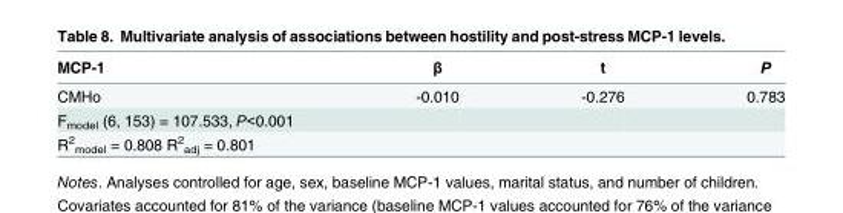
<table><thead><tr><td>MCP-1</td><td>β</td><td>t</td><td>P</td></tr></thead><tbody><tr><td>CMHo</td><td>-0.010</td><td>-0.276</td><td>0.783</td></tr><tr><td colspan="4">F<sub>model</sub> (6, 153) = 107.533, P&lt;0.001</td></tr><tr><td>R<sup>2</sup> <sub>model</sub> = 0.808 R<sup>2</sup> <sub>adj</sub> = 0.801</td><td></td><td></td><td></td></tr></tbody></table>